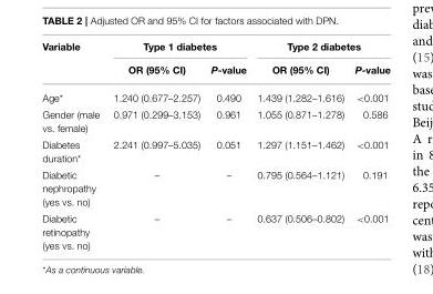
<table><thead><tr><td rowspan="2">Variable</td><td colspan="2">Type 1 diabetes</td><td colspan="2">Type 2 diabetes</td></tr><tr><td>OR (95% CI)</td><td>P-value</td><td>OR (95% CI)</td><td>P-value</td></tr></thead><tbody><tr><td>Age*</td><td>1.240 (0.677–2.257)</td><td>0.490</td><td>1.439 (1.282–1.616)</td><td>&lt;0.001</td></tr><tr><td>Gender (male vs. female)</td><td>0.971 (0.299–3.153)</td><td>0.961</td><td>1.055 (0.871–1.278)</td><td>0.586</td></tr><tr><td>Diabetes duration*</td><td>2.241 (0.997–5.035)</td><td>0.051</td><td>1.297 (1.151–1.462)</td><td>&lt;0.001</td></tr><tr><td>Diabetic nephropathy (yes vs. no)</td><td>–</td><td>–</td><td>0.795 (0.564–1.121)</td><td>0.191</td></tr><tr><td>Diabetic retinopathy (yes vs. no)</td><td>–</td><td>–</td><td>0.637 (0.506–0.802)</td><td>&lt;0.001</td></tr></tbody></table>